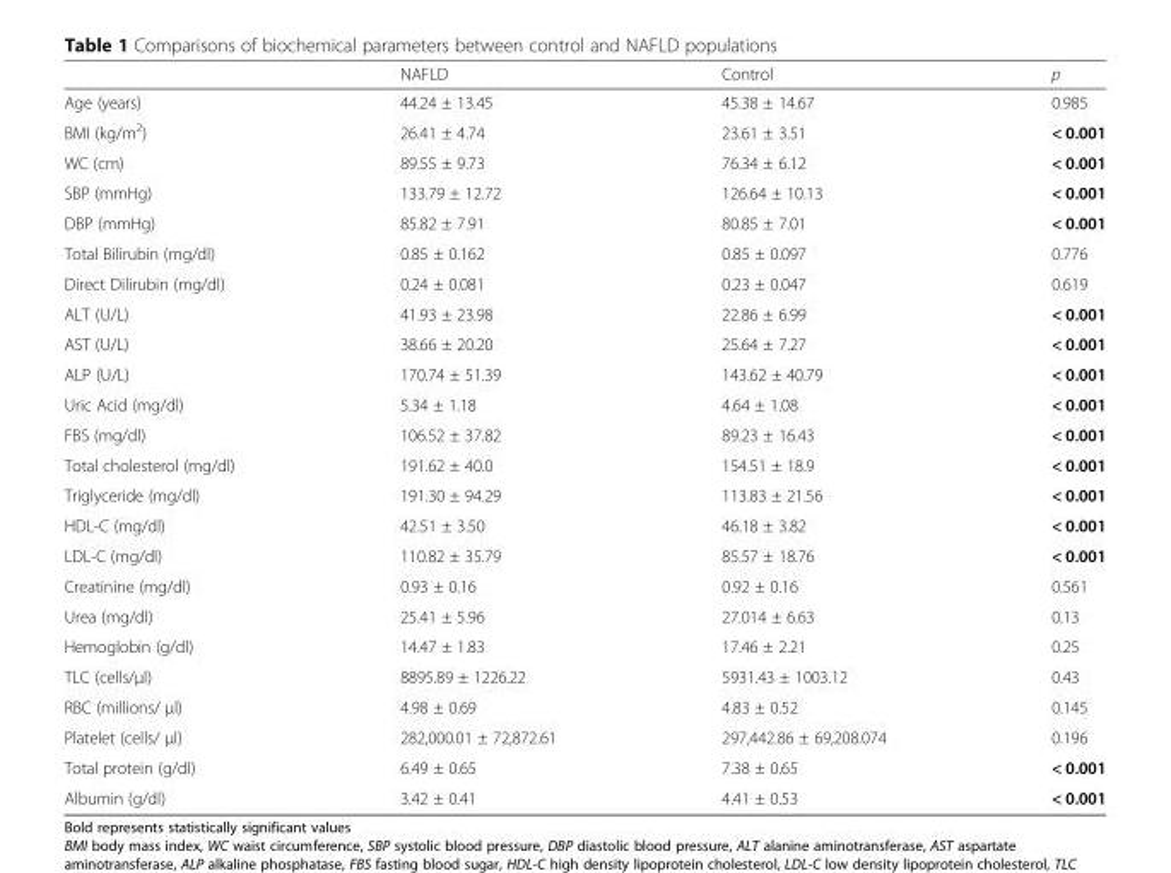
<table><thead><tr><td></td><td>NAFLD</td><td>Control</td><td>p</td></tr></thead><tbody><tr><td>Age (years)</td><td>44.24 ± 13.45</td><td>45.38 ± 14.67</td><td>0.985</td></tr><tr><td>BMI (kg/m<sup>2</sup>)</td><td>26.41 ± 4.74</td><td>23.61 ± 3.51</td><td>&lt; 0.001</td></tr><tr><td>WC (cm)</td><td>89.55 ± 9.73</td><td>76.34 ± 6.12</td><td>&lt; 0.001</td></tr><tr><td>SBP (mmHg)</td><td>133.79 ± 12.72</td><td>126.64 ± 10.13</td><td>&lt; 0.001</td></tr><tr><td>DBP (mmHg)</td><td>85.82 ± 7.91</td><td>80.85 ± 7.01</td><td>&lt; 0.001</td></tr><tr><td>Total Bilirubin (mg/dl)</td><td>0.85 ± 0.162</td><td>0.85 ± 0.097</td><td>0.776</td></tr><tr><td>Direct Dilirubin (mg/dl)</td><td>0.24 ± 0.081</td><td>0.23 ± 0.047</td><td>0.619</td></tr><tr><td>ALT (U/L)</td><td>41.93 ± 23.98</td><td>22.86 ± 6.99</td><td>&lt; 0.001</td></tr><tr><td>AST (U/L)</td><td>38.66 ± 20.20</td><td>25.64 ± 7.27</td><td>&lt; 0.001</td></tr><tr><td>ALP (U/L)</td><td>170.74 ± 51.39</td><td>143.62 ± 40.79</td><td>&lt; 0.001</td></tr><tr><td>Uric Acid (mg/dl)</td><td>5.34 ± 1.18</td><td>4.64 ± 1.08</td><td>&lt; 0.001</td></tr><tr><td>FBS (mg/dl)</td><td>106.52 ± 37.82</td><td>89.23 ± 16.43</td><td>&lt; 0.001</td></tr><tr><td>Total cholesterol (mg/dl)</td><td>191.62 ± 40.0</td><td>154.51 ± 18.9</td><td>&lt; 0.001</td></tr><tr><td>Triglyceride (mg/dl)</td><td>191.30 ± 94.29</td><td>113.83 ± 21.56</td><td>&lt; 0.001</td></tr><tr><td>HDL-C (mg/dl)</td><td>42.51 ± 3.50</td><td>46.18 ± 3.82</td><td>&lt; 0.001</td></tr><tr><td>LDL-C (mg/dl)</td><td>110.82 ± 35.79</td><td>85.57 ± 18.76</td><td>&lt; 0.001</td></tr><tr><td>Creatinine (mg/dl)</td><td>0.93 ± 0.16</td><td>0.92 ± 0.16</td><td>0.561</td></tr><tr><td>Urea (mg/dl)</td><td>25.41 ± 5.96</td><td>27.014 ± 6.63</td><td>0.13</td></tr><tr><td>Hemoglobin (g/dl)</td><td>14.47 ± 1.83</td><td>17.46 ± 2.21</td><td>0.25</td></tr><tr><td>TLC (cells/μl)</td><td>8895.89 ± 1226.22</td><td>5931.43 ± 1003.12</td><td>0.43</td></tr><tr><td>RBC (millions/ μl)</td><td>4.98 ± 0.69</td><td>4.83 ± 0.52</td><td>0.145</td></tr><tr><td>Platelet (cells/ μl)</td><td>282,000.01 ± 72,872.61</td><td>297,442.86 ± 69,208.074</td><td>0.196</td></tr><tr><td>Total protein (g/dl)</td><td>6.49 ± 0.65</td><td>7.38 ± 0.65</td><td>&lt; 0.001</td></tr><tr><td>Albumin (g/dl)</td><td>3.42 ± 0.41</td><td>4.41 ± 0.53</td><td>&lt; 0.001</td></tr></tbody></table>